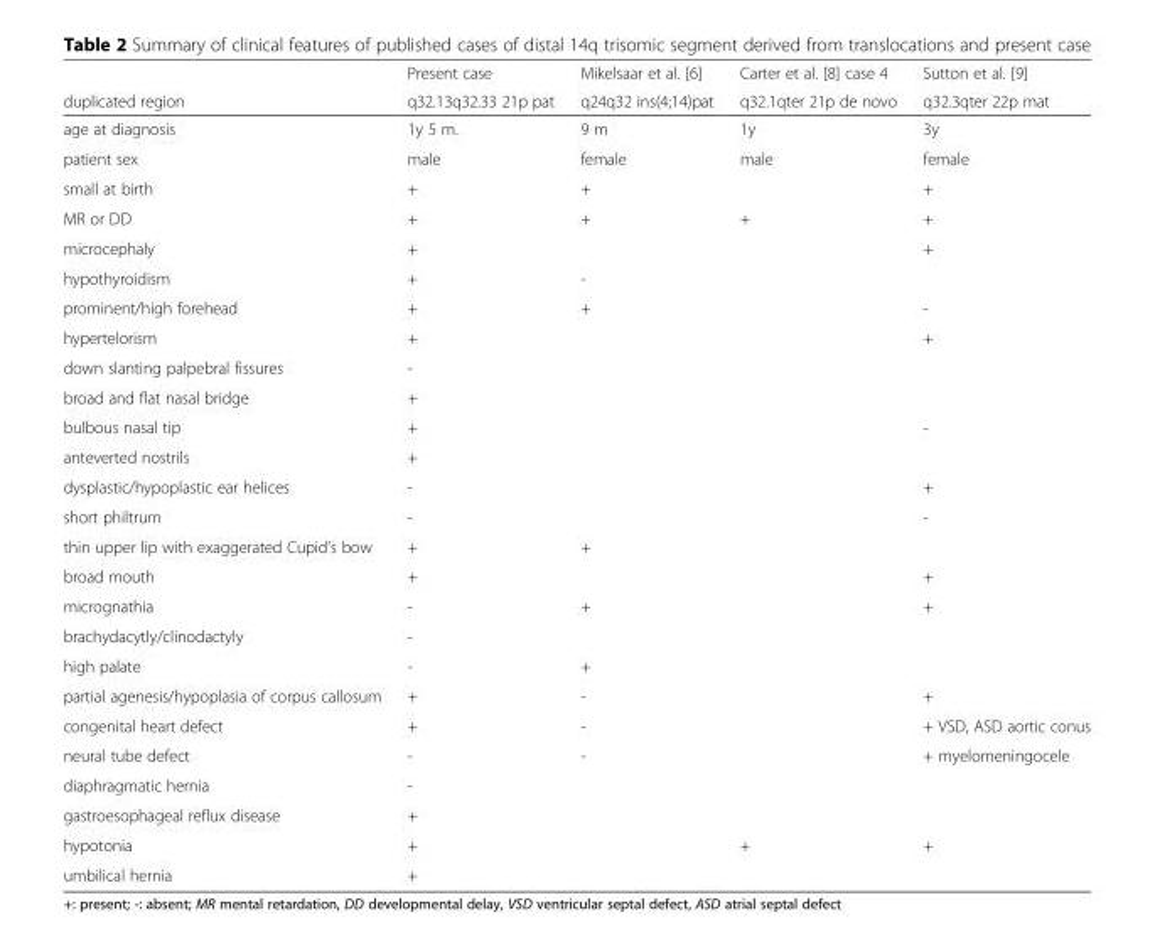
<table><thead><tr><td rowspan="2">duplicated region</td><td rowspan="2">Present case q32.13q32.33 21p pat</td><td rowspan="2">Mikelsaar et al. [6] q24q32 ins(4;14)pat</td><td rowspan="2">Carter et al. [8] case 4 q32.1qter 21p de novo</td><td rowspan="2">Sutton et al. [9] q32.3qter 22p mat</td></tr><tr></tr></thead><tbody><tr><td>age at diagnosis</td><td>1y 5 m.</td><td>9 m</td><td>1y</td><td>3y</td></tr><tr><td>patient sex</td><td>male</td><td>female</td><td>male</td><td>female</td></tr><tr><td>small at birth</td><td>+</td><td>+</td><td></td><td>+</td></tr><tr><td>MR or DD</td><td>+</td><td>+</td><td>+</td><td>+</td></tr><tr><td>microcephaly</td><td>+</td><td></td><td></td><td>+</td></tr><tr><td>hypothyroidism</td><td>+</td><td>-</td><td></td><td></td></tr><tr><td>prominent/high forehead</td><td>+</td><td>+</td><td></td><td>-</td></tr><tr><td>hypertelorism</td><td>+</td><td></td><td></td><td>+</td></tr><tr><td>down slanting palpebral fissures</td><td>-</td><td></td><td></td><td></td></tr><tr><td>broad and flat nasal bridge</td><td>+</td><td></td><td></td><td></td></tr><tr><td>bulbous nasal tip</td><td>+</td><td></td><td></td><td>-</td></tr><tr><td>anteverted nostrils</td><td>+</td><td></td><td></td><td></td></tr><tr><td>dysplastic/hypoplastic ear helices</td><td>-</td><td></td><td></td><td>+</td></tr><tr><td>short philtrum</td><td>-</td><td></td><td></td><td>-</td></tr><tr><td>thin upper lip with exaggerated Cupid’s bow</td><td>+</td><td>+</td><td></td><td></td></tr><tr><td>broad mouth</td><td>+</td><td></td><td></td><td>+</td></tr><tr><td>micrognathia</td><td>-</td><td>+</td><td></td><td>+</td></tr><tr><td>brachydacytly/clinodactyly</td><td>-</td><td></td><td></td><td></td></tr><tr><td>high palate</td><td>-</td><td>+</td><td></td><td></td></tr><tr><td>partial agenesis/hypoplasia of corpus callosum</td><td>+</td><td>-</td><td></td><td>+</td></tr><tr><td>congenital heart defect</td><td>+</td><td>-</td><td></td><td>+ VSD, ASD aortic conus</td></tr><tr><td>neural tube defect</td><td>-</td><td>-</td><td></td><td>+ myelomeningocele</td></tr><tr><td>diaphragmatic hernia</td><td>-</td><td></td><td></td><td></td></tr><tr><td>gastroesophageal reflux disease</td><td>+</td><td></td><td></td><td></td></tr><tr><td>hypotonia</td><td>+</td><td></td><td>+</td><td>+</td></tr><tr><td>umbilical hernia</td><td>+</td><td></td><td></td><td></td></tr></tbody></table>